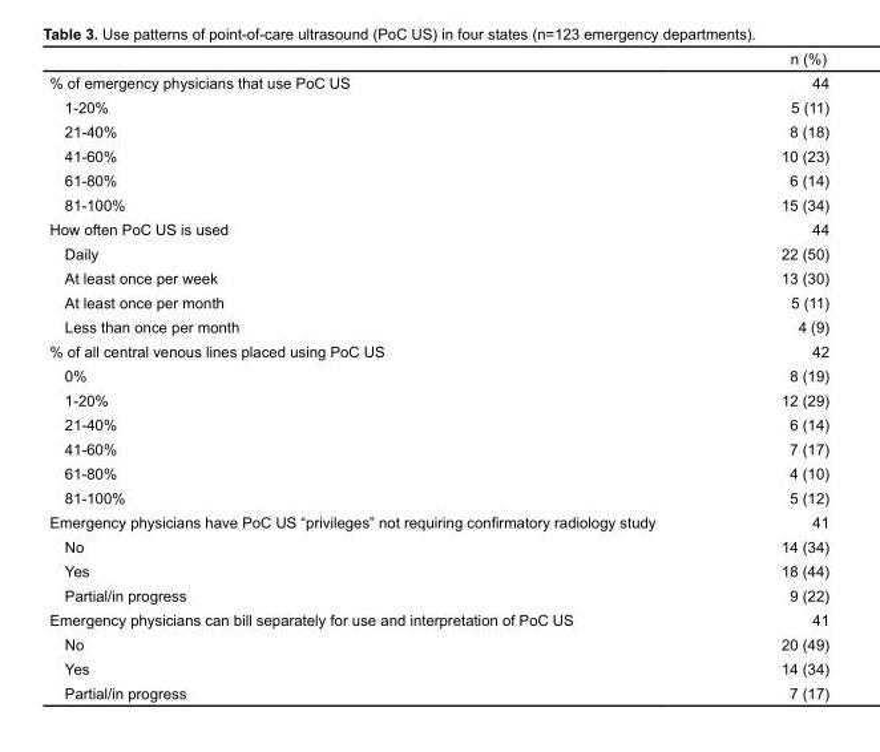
<table><thead><tr><td></td><td>n (%)</td></tr></thead><tbody><tr><td>% of emergency physicians that use PoC US</td><td>44</td></tr><tr><td>1-20%</td><td>5 (11)</td></tr><tr><td>21-40%</td><td>8 (18)</td></tr><tr><td>41-60%</td><td>10 (23)</td></tr><tr><td>61-80%</td><td>6 (14)</td></tr><tr><td>81-100%</td><td>15 (34)</td></tr><tr><td>How often PoC US is used</td><td>44</td></tr><tr><td>Daily</td><td>22 (50)</td></tr><tr><td>At least once per week</td><td>13 (30)</td></tr><tr><td>At least once per month</td><td>5 (11)</td></tr><tr><td>Less than once per month</td><td>4 (9)</td></tr><tr><td>% of all central venous lines placed using PoC US</td><td>42</td></tr><tr><td>0%</td><td>8 (19)</td></tr><tr><td>1-20%</td><td>12 (29)</td></tr><tr><td>21-40%</td><td>6 (14)</td></tr><tr><td>41-60%</td><td>7 (17)</td></tr><tr><td>61-80%</td><td>4 (10)</td></tr><tr><td>81-100%</td><td>5 (12)</td></tr><tr><td>Emergency physicians have PoC US “privileges” not requiring confirmatory radiology study</td><td>41</td></tr><tr><td>No</td><td>14 (34)</td></tr><tr><td>Yes</td><td>18 (44)</td></tr><tr><td>Partial/in progress</td><td>9 (22)</td></tr><tr><td>Emergency physicians can bill separately for use and interpretation of PoC US</td><td>41</td></tr><tr><td>No</td><td>20 (49)</td></tr><tr><td>Yes</td><td>14 (34)</td></tr><tr><td>Partial/in progress</td><td>7 (17)</td></tr></tbody></table>